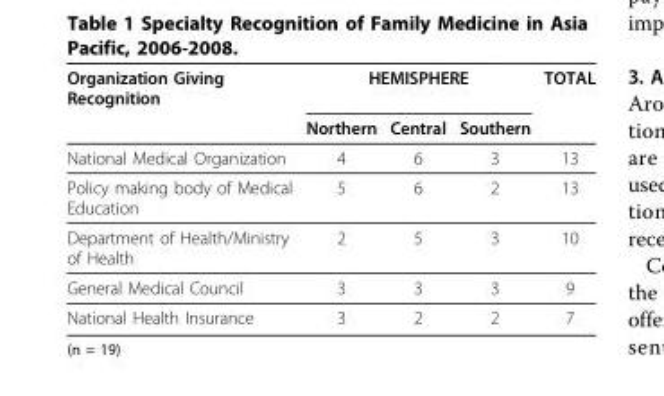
<table><thead><tr><td rowspan="2">Organization Giving Recognition</td><td colspan="3">HEMISPHERE</td><td rowspan="2">TOTAL</td></tr><tr><td>Northern</td><td>Central</td><td>Southern</td></tr></thead><tbody><tr><td>National Medical Organization</td><td>4</td><td>6</td><td>3</td><td>13</td></tr><tr><td>Policy making body of Medical Education</td><td>5</td><td>6</td><td>2</td><td>13</td></tr><tr><td>Department of Health/Ministry of Health</td><td>2</td><td>5</td><td>3</td><td>10</td></tr><tr><td>General Medical Council</td><td>3</td><td>3</td><td>3</td><td>9</td></tr><tr><td>National Health Insurance</td><td>3</td><td>2</td><td>2</td><td>7</td></tr></tbody></table>